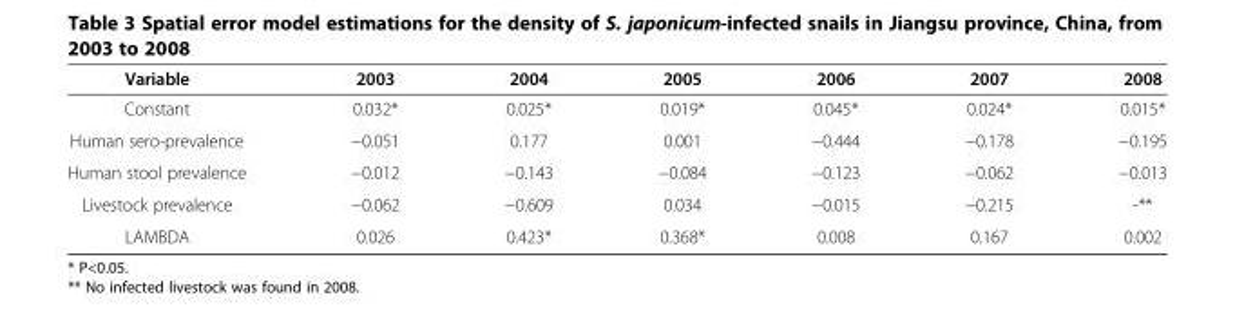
<table><thead><tr><td>Variable</td><td>2003</td><td>2004</td><td>2005</td><td>2006</td><td>2007</td><td>2008</td></tr></thead><tbody><tr><td>Constant</td><td>0.032*</td><td>0.025*</td><td>0.019*</td><td>0.045*</td><td>0.024*</td><td>0.015*</td></tr><tr><td>Human sero-prevalence</td><td>−0.051</td><td>0.177</td><td>0.001</td><td>−0.444</td><td>−0.178</td><td>−0.195</td></tr><tr><td>Human stool prevalence</td><td>−0.012</td><td>−0.143</td><td>−0.084</td><td>−0.123</td><td>−0.062</td><td>−0.013</td></tr><tr><td>Livestock prevalence</td><td>−0.062</td><td>−0.609</td><td>0.034</td><td>−0.015</td><td>−0.215</td><td>-**</td></tr><tr><td>LAMBDA</td><td>0.026</td><td>0.423*</td><td>0.368*</td><td>0.008</td><td>0.167</td><td>0.002</td></tr></tbody></table>